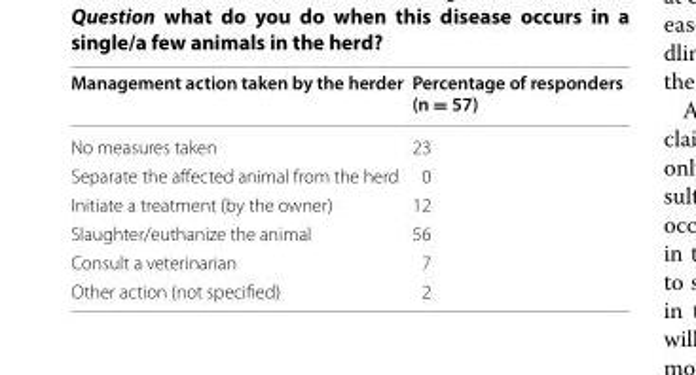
<table><thead><tr><td>Management action taken by the herder</td><td>Percentage of responders (n = 57)</td></tr></thead><tbody><tr><td>No measures taken</td><td>23</td></tr><tr><td>Separate the affected animal from the herd</td><td>0</td></tr><tr><td>Initiate a treatment (by the owner)</td><td>12</td></tr><tr><td>Slaughter/euthanize the animal</td><td>56</td></tr><tr><td>Consult a veterinarian</td><td>7</td></tr><tr><td>Other action (not specified)</td><td>2</td></tr></tbody></table>